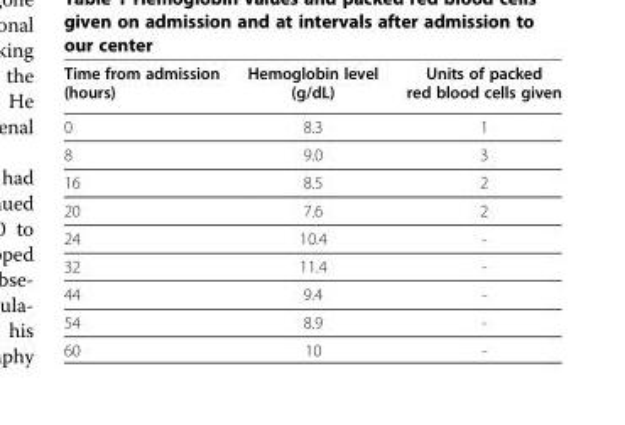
<table><thead><tr><td>Time from admission (hours)</td><td>Hemoglobin level (g/dL)</td><td>Units of packed red blood cells given</td></tr></thead><tbody><tr><td>0</td><td>8.3</td><td>1</td></tr><tr><td>8</td><td>9.0</td><td>3</td></tr><tr><td>16</td><td>8.5</td><td>2</td></tr><tr><td>20</td><td>7.6</td><td>2</td></tr><tr><td>24</td><td>10.4</td><td>-</td></tr><tr><td>32</td><td>11.4</td><td>-</td></tr><tr><td>44</td><td>9.4</td><td>-</td></tr><tr><td>54</td><td>8.9</td><td>-</td></tr><tr><td>60</td><td>10</td><td>-</td></tr></tbody></table>